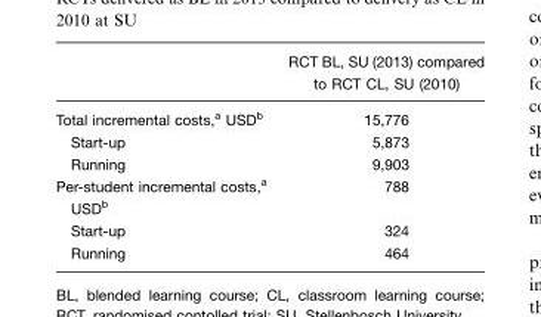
<table><thead><tr><td></td><td>RCT BL, SU (2013) compared to RCT CL, SU (2010)</td></tr></thead><tbody><tr><td>Total incremental costs,<sup>a</sup> USD<sup>b</sup></td><td>15,776</td></tr><tr><td>Start-up</td><td>5,873</td></tr><tr><td>Running</td><td>9,903</td></tr><tr><td>Per-student incremental costs,<sup>a</sup> USD<sup>b</sup></td><td>788</td></tr><tr><td>Start-up</td><td>324</td></tr><tr><td>Running</td><td>464</td></tr></tbody></table>